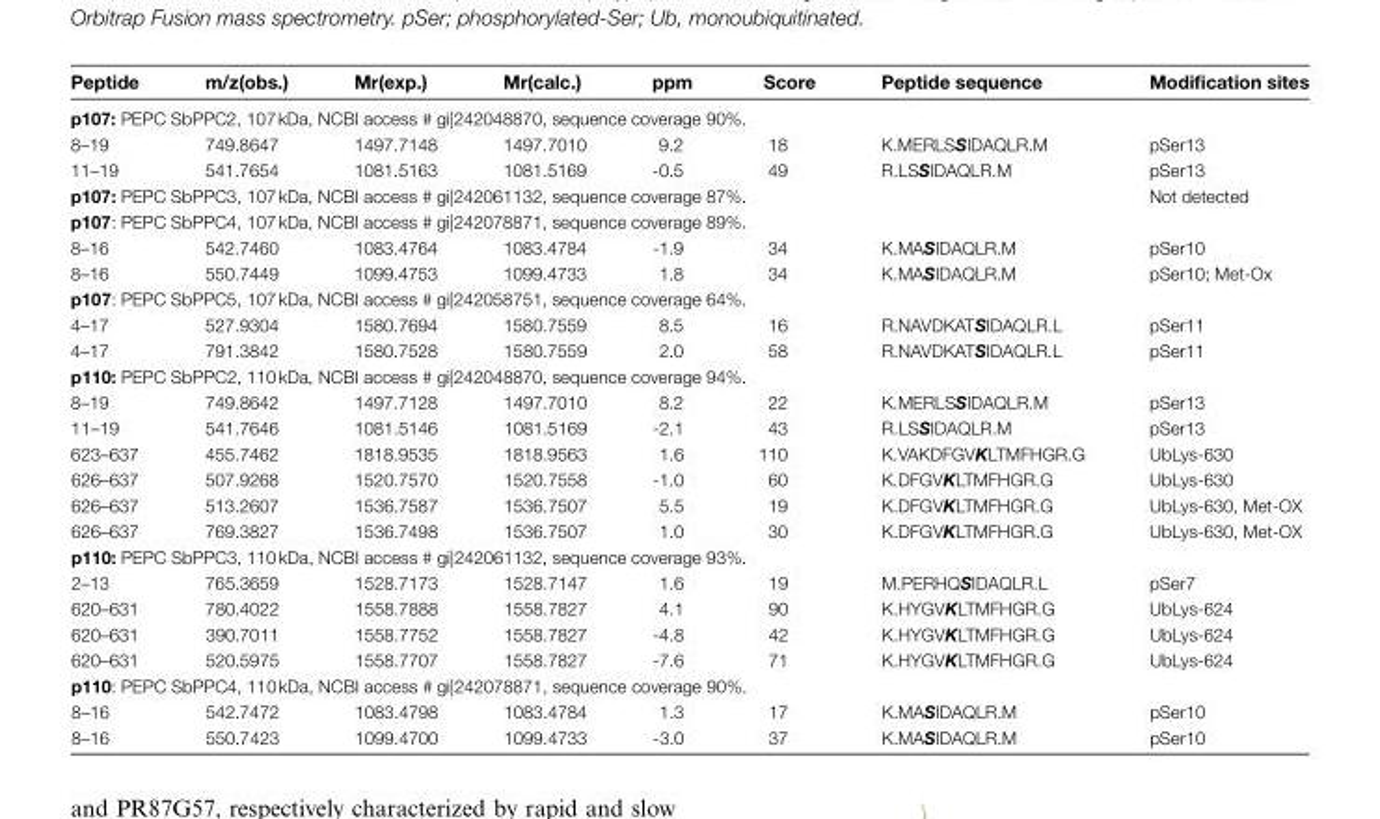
<table><thead><tr><td>Peptide</td><td>m/z(obs.)</td><td>Mr(exp.)</td><td>Mr(calc.)</td><td>ppm</td><td>Score</td><td>Peptide sequence</td><td>Modification sites</td></tr></thead><tbody><tr><td colspan="8">p107: PEPC SbPPC2, 107 kDa, NCBI access # gi|242048870, sequence coverage 90%.</td></tr><tr><td>8–19</td><td>749.8647</td><td>1497.7148</td><td>1497.7010</td><td>9.2</td><td>18</td><td>K.MERLSSIDAQLR.M</td><td>pSer13</td></tr><tr><td>11–19</td><td>541.7654</td><td>1081.5163</td><td>1081.5169</td><td>-0.5</td><td>49</td><td>R.LSSIDAQLR.M</td><td>pSer13</td></tr><tr><td colspan="7">p107: PEPC SbPPC3, 107 kDa, NCBI access # gi|242061132, sequence coverage 87%.</td><td>Not detected</td></tr><tr><td colspan="8">p107: PEPC SbPPC4, 107 kDa, NCBI access # gi|242078871, sequence coverage 89%.</td></tr><tr><td>8–16</td><td>542.7460</td><td>1083.4764</td><td>1083.4784</td><td>-1.9</td><td>34</td><td>K.MASIDAQLR.M</td><td>pSer10</td></tr><tr><td>8–16</td><td>550.7449</td><td>1099.4753</td><td>1099.4733</td><td>1.8</td><td>34</td><td>K.MASIDAQLR.M</td><td>pSer10; Met-Ox</td></tr><tr><td colspan="8">p107: PEPC SbPPC5, 107 kDa, NCBI access # gi|242058751, sequence coverage 64%.</td></tr><tr><td>4–17</td><td>527.9304</td><td>1580.7694</td><td>1580.7559</td><td>8.5</td><td>16</td><td>R.NAVDKATSIDAQLR.L</td><td>pSer11</td></tr><tr><td>4–17</td><td>791.3842</td><td>1580.7528</td><td>1580.7559</td><td>2.0</td><td>58</td><td>R.NAVDKATSIDAQLR.L</td><td>pSer11</td></tr><tr><td colspan="8">p110: PEPC SbPPC2, 110 kDa, NCBI access # gi|242048870, sequence coverage 94%.</td></tr><tr><td>8–19</td><td>749.8642</td><td>1497.7128</td><td>1497.7010</td><td>8.2</td><td>22</td><td>K.MERLSSIDAQLR.M</td><td>pSer13</td></tr><tr><td>11–19</td><td>541.7646</td><td>1081.5146</td><td>1081.5169</td><td>-2.1</td><td>43</td><td>R.LSSIDAQLR.M</td><td>pSer13</td></tr><tr><td>623–637</td><td>455.7462</td><td>1818.9535</td><td>1818.9563</td><td>1.6</td><td>110</td><td>K.VAKDFGVKLTMFHGR.G</td><td>UbLys-630</td></tr><tr><td>626–637</td><td>507.9268</td><td>1520.7570</td><td>1520.7558</td><td>-1.0</td><td>60</td><td>K.DFGVKLTMFHGR.G</td><td>UbLys-630</td></tr><tr><td>626–637</td><td>513.2607</td><td>1536.7587</td><td>1536.7507</td><td>5.5</td><td>19</td><td>K.DFGVKLTMFHGR.G</td><td>UbLys-630, Met-OX</td></tr><tr><td>626–637</td><td>769.3827</td><td>1536.7498</td><td>1536.7507</td><td>1.0</td><td>30</td><td>K.DFGVKLTMFHGR.G</td><td>UbLys-630, Met-OX</td></tr><tr><td colspan="8">p110: PEPC SbPPC3, 110 kDa, NCBI access # gi|242061132, sequence coverage 93%.</td></tr><tr><td>2–13</td><td>765.3659</td><td>1528.7173</td><td>1528.7147</td><td>1.6</td><td>19</td><td>M.PERHQSIDAQLR.L</td><td>pSer7</td></tr><tr><td>620–631</td><td>780.4022</td><td>1558.7888</td><td>1558.7827</td><td>4.1</td><td>90</td><td>K.HYGVKLTMFHGR.G</td><td>UbLys-624</td></tr><tr><td>620–631</td><td>390.7011</td><td>1558.7752</td><td>1558.7827</td><td>-4.8</td><td>42</td><td>K.HYGVKLTMFHGR.G</td><td>UbLys-624</td></tr><tr><td>620–631</td><td>520.5975</td><td>1558.7707</td><td>1558.7827</td><td>-7.6</td><td>71</td><td>K.HYGVKLTMFHGR.G</td><td>UbLys-624</td></tr><tr><td colspan="8">p110: PEPC SbPPC4, 110 kDa, NCBI access # gi|242078871, sequence coverage 90%.</td></tr><tr><td>8–16</td><td>542.7472</td><td>1083.4798</td><td>1083.4784</td><td>1.3</td><td>17</td><td>K.MASIDAQLR.M</td><td>pSer10</td></tr><tr><td>8–16</td><td>550.7423</td><td>1099.4700</td><td>1099.4733</td><td>-3.0</td><td>37</td><td>K.MASIDAQLR.M</td><td>pSer10</td></tr></tbody></table>